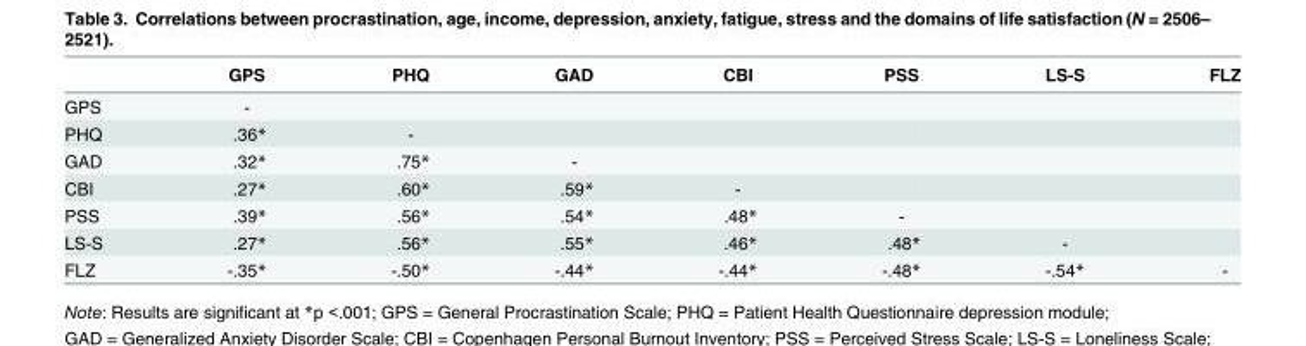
<table><thead><tr><td></td><td>GPS</td><td>PHQ</td><td>GAD</td><td>CBI</td><td>PSS</td><td>LS-S</td><td>FLZ</td></tr></thead><tbody><tr><td>GPS</td><td>-</td><td></td><td></td><td></td><td></td><td></td><td></td></tr><tr><td>PHQ</td><td>.36*</td><td>-</td><td></td><td></td><td></td><td></td><td></td></tr><tr><td>GAD</td><td>.32*</td><td>.75*</td><td>-</td><td></td><td></td><td></td><td></td></tr><tr><td>CBI</td><td>.27*</td><td>.60*</td><td>.59*</td><td>-</td><td></td><td></td><td></td></tr><tr><td>PSS</td><td>.39*</td><td>.56*</td><td>.54*</td><td>.48*</td><td>-</td><td></td><td></td></tr><tr><td>LS-S</td><td>.27*</td><td>.56*</td><td>.55*</td><td>.46*</td><td>.48*</td><td>-</td><td></td></tr><tr><td>FLZ</td><td>-.35*</td><td>-.50*</td><td>-.44*</td><td>-.44*</td><td>-.48*</td><td>-.54*</td><td>-</td></tr></tbody></table>